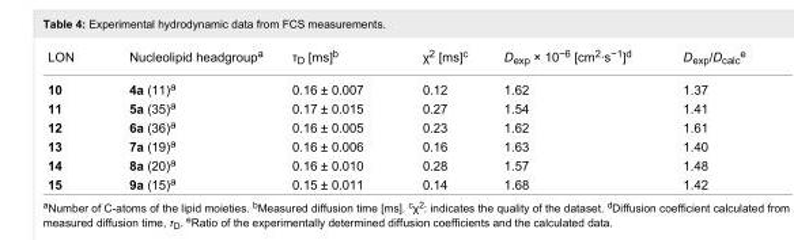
<table><tbody><tr><td>LON</td><td>Nucleolipid headgroup<sup>a</sup></td><td>τ<sub>D</sub> [ms]<sup>b</sup></td><td>χ<sup>2</sup> [ms]<sup>c</sup></td><td>D<sub>exp</sub> × 10<sup>−6</sup> [cm<sup>2</sup>·s<sup>−1</sup>]<sup>d</sup></td><td>D<sub>exp</sub>/D<sub>calc</sub><sup>e</sup></td></tr><tr><td>10</td><td>4a (11)<sup>a</sup></td><td>0.16 ± 0.007</td><td>0.12</td><td>1.62</td><td>1.37</td></tr><tr><td>11</td><td>5a (35)<sup>a</sup></td><td>0.17 ± 0.015</td><td>0.27</td><td>1.54</td><td>1.41</td></tr><tr><td>12</td><td>6a (36)<sup>a</sup></td><td>0.16 ± 0.005</td><td>0.23</td><td>1.62</td><td>1.61</td></tr><tr><td>13</td><td>7a (19)<sup>a</sup></td><td>0.16 ± 0.006</td><td>0.16</td><td>1.63</td><td>1.40</td></tr><tr><td>14</td><td>8a (20)<sup>a</sup></td><td>0.16 ± 0.010</td><td>0.28</td><td>1.57</td><td>1.48</td></tr><tr><td>15</td><td>9a (15)<sup>a</sup></td><td>0.15 ± 0.011</td><td>0.14</td><td>1.68</td><td>1.42</td></tr></tbody></table>